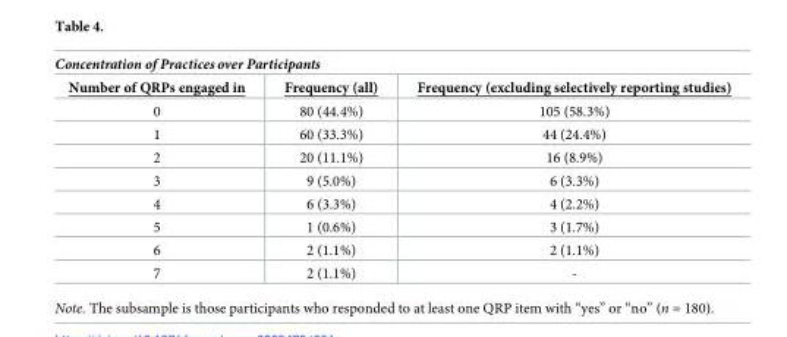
<table><thead><tr><td colspan="3">Concentration of Practices over Participants</td></tr><tr><td>Number of QRPs engaged in</td><td>Frequency (all)</td><td>Frequency (excluding selectively reporting studies)</td></tr></thead><tbody><tr><td>0</td><td>80 (44.4%)</td><td>105 (58.3%)</td></tr><tr><td>1</td><td>60 (33.3%)</td><td>44 (24.4%)</td></tr><tr><td>2</td><td>20 (11.1%)</td><td>16 (8.9%)</td></tr><tr><td>3</td><td>9 (5.0%)</td><td>6 (3.3%)</td></tr><tr><td>4</td><td>6 (3.3%)</td><td>4 (2.2%)</td></tr><tr><td>5</td><td>1 (0.6%)</td><td>3 (1.7%)</td></tr><tr><td>6</td><td>2 (1.1%)</td><td>2 (1.1%)</td></tr><tr><td>7</td><td>2 (1.1%)</td><td>-</td></tr></tbody></table>